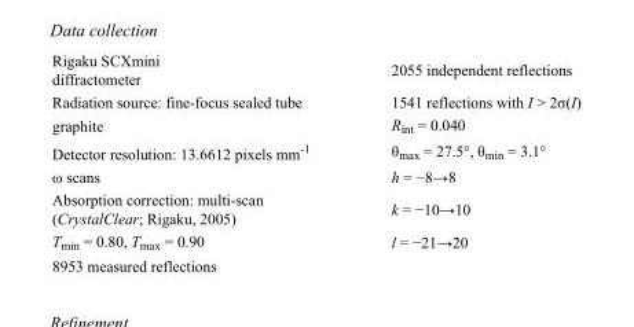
<table><tbody><tr><td>Rigaku SCXmini diffractometer</td><td>2055 independent reflections</td></tr><tr><td>Radiation source: fine-focus sealed tube</td><td>1541 reflections with I &gt; 2σ(I)</td></tr><tr><td>graphite</td><td>R<sub>int</sub> = 0.040</td></tr><tr><td>Detector resolution: 13.6612 pixels mm<sup>-1</sup></td><td>θ<sub>max</sub> = 27.5°, θ<sub>min</sub> = 3.1°</td></tr><tr><td>ω scans</td><td>h = −8→8</td></tr><tr><td>Absorption correction: multi-scan (CrystalClear; Rigaku, 2005)</td><td>k = −10→10</td></tr><tr><td>T<sub>min</sub> = 0.80, T<sub>max</sub> = 0.90</td><td>l = −21→20</td></tr><tr><td>8953 measured reflections</td><td></td></tr></tbody></table>